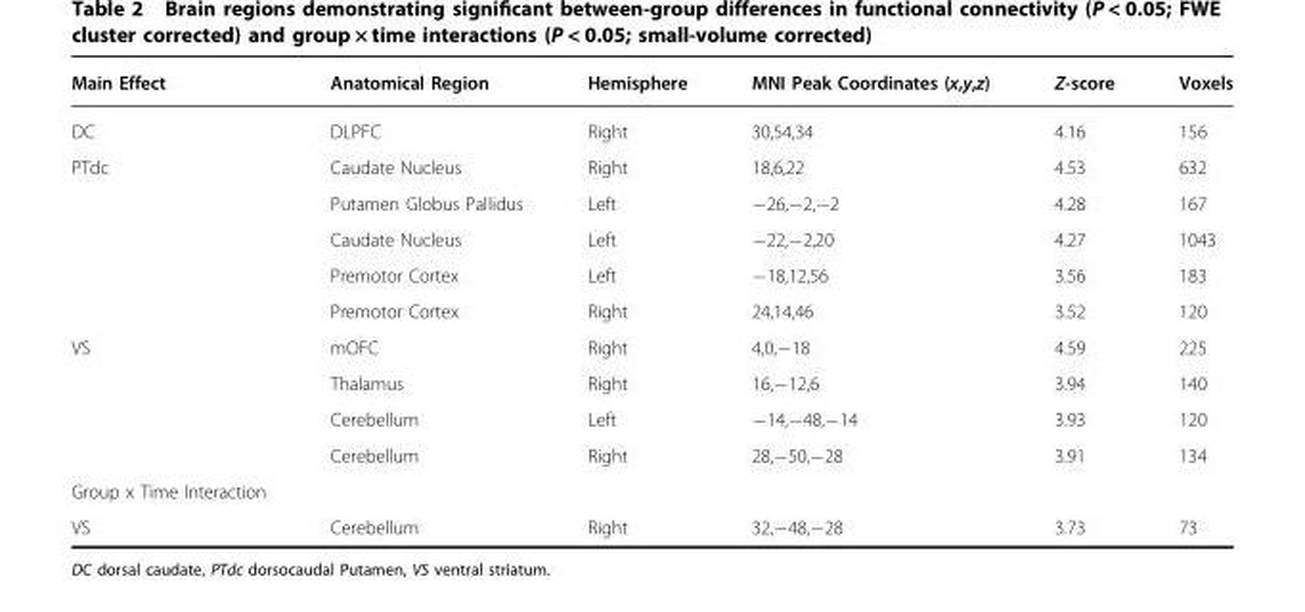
<table><thead><tr><td>Main Effect</td><td>Anatomical Region</td><td>Hemisphere</td><td>MNI Peak Coordinates (x,y,z)</td><td>Z-score</td><td>Voxels</td></tr></thead><tbody><tr><td>DC</td><td>DLPFC</td><td>Right</td><td>30,54,34</td><td>4.16</td><td>156</td></tr><tr><td rowspan="5">PTdc</td><td>Caudate Nucleus</td><td>Right</td><td>18,6,22</td><td>4.53</td><td>632</td></tr><tr><td>Putamen Globus Pallidus</td><td>Left</td><td>−26,−2,−2</td><td>4.28</td><td>167</td></tr><tr><td>Caudate Nucleus</td><td>Left</td><td>−22,−2,20</td><td>4.27</td><td>1043</td></tr><tr><td>Premotor Cortex</td><td>Left</td><td>−18,12,56</td><td>3.56</td><td>183</td></tr><tr><td>Premotor Cortex</td><td>Right</td><td>24,14,46</td><td>3.52</td><td>120</td></tr><tr><td rowspan="4">VS</td><td>mOFC</td><td>Right</td><td>4,0,−18</td><td>4.59</td><td>225</td></tr><tr><td>Thalamus</td><td>Right</td><td>16,−12,6</td><td>3.94</td><td>140</td></tr><tr><td>Cerebellum</td><td>Left</td><td>−14,−48,−14</td><td>3.93</td><td>120</td></tr><tr><td>Cerebellum</td><td>Right</td><td>28,−50,−28</td><td>3.91</td><td>134</td></tr><tr><td colspan="6">Group x Time Interaction</td></tr><tr><td>VS</td><td>Cerebellum</td><td>Right</td><td>32,−48,−28</td><td>3.73</td><td>73</td></tr></tbody></table>